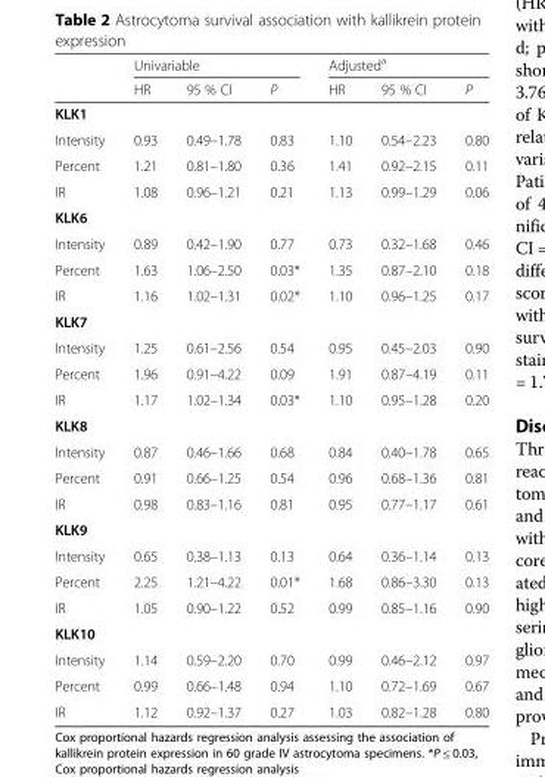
<table><thead><tr><td rowspan="2"></td><td colspan="3">Univariable</td><td colspan="3">Adjusted<sup>a</sup></td></tr><tr><td>HR</td><td>95 % CI</td><td>P</td><td>HR</td><td>95 % CI</td><td>P</td></tr></thead><tbody><tr><td colspan="7">KLK1</td></tr><tr><td>Intensity</td><td>0.93</td><td>0.49–1.78</td><td>0.83</td><td>1.10</td><td>0.54–2.23</td><td>0.80</td></tr><tr><td>Percent</td><td>1.21</td><td>0.81–1.80</td><td>0.36</td><td>1.41</td><td>0.92–2.15</td><td>0.11</td></tr><tr><td>IR</td><td>1.08</td><td>0.96–1.21</td><td>0.21</td><td>1.13</td><td>0.99–1.29</td><td>0.06</td></tr><tr><td colspan="7">KLK6</td></tr><tr><td>Intensity</td><td>0.89</td><td>0.42–1.90</td><td>0.77</td><td>0.73</td><td>0.32–1.68</td><td>0.46</td></tr><tr><td>Percent</td><td>1.63</td><td>1.06–2.50</td><td>0.03*</td><td>1.35</td><td>0.87–2.10</td><td>0.18</td></tr><tr><td>IR</td><td>1.16</td><td>1.02–1.31</td><td>0.02*</td><td>1.10</td><td>0.96–1.25</td><td>0.17</td></tr><tr><td colspan="7">KLK7</td></tr><tr><td>Intensity</td><td>1.25</td><td>0.61–2.56</td><td>0.54</td><td>0.95</td><td>0.45–2.03</td><td>0.90</td></tr><tr><td>Percent</td><td>1.96</td><td>0.91–4.22</td><td>0.09</td><td>1.91</td><td>0.87–4.19</td><td>0.11</td></tr><tr><td>IR</td><td>1.17</td><td>1.02–1.34</td><td>0.03*</td><td>1.10</td><td>0.95–1.28</td><td>0.20</td></tr><tr><td colspan="7">KLK8</td></tr><tr><td>Intensity</td><td>0.87</td><td>0.46–1.66</td><td>0.68</td><td>0.84</td><td>0.40–1.78</td><td>0.65</td></tr><tr><td>Percent</td><td>0.91</td><td>0.66–1.25</td><td>0.54</td><td>0.96</td><td>0.68–1.36</td><td>0.81</td></tr><tr><td>IR</td><td>0.98</td><td>0.83–1.16</td><td>0.81</td><td>0.95</td><td>0.77–1.17</td><td>0.61</td></tr><tr><td colspan="7">KLK9</td></tr><tr><td>Intensity</td><td>0.65</td><td>0.38–1.13</td><td>0.13</td><td>0.64</td><td>0.36–1.14</td><td>0.13</td></tr><tr><td>Percent</td><td>2.25</td><td>1.21–4.22</td><td>0.01*</td><td>1.68</td><td>0.86–3.30</td><td>0.13</td></tr><tr><td>IR</td><td>1.05</td><td>0.90–1.22</td><td>0.52</td><td>0.99</td><td>0.85–1.16</td><td>0.90</td></tr><tr><td colspan="7">KLK10</td></tr><tr><td>Intensity</td><td>1.14</td><td>0.59–2.20</td><td>0.70</td><td>0.99</td><td>0.46–2.12</td><td>0.97</td></tr><tr><td>Percent</td><td>0.99</td><td>0.66–1.48</td><td>0.94</td><td>1.10</td><td>0.72–1.69</td><td>0.67</td></tr><tr><td>IR</td><td>1.12</td><td>0.92–1.37</td><td>0.27</td><td>1.03</td><td>0.82–1.28</td><td>0.80</td></tr></tbody></table>